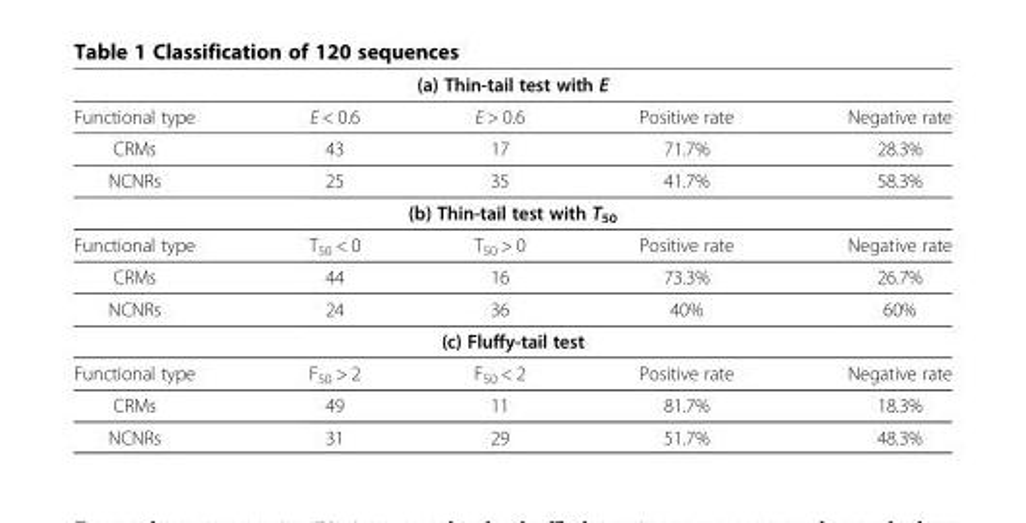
<table><tbody><tr><td colspan="5">(a) Thin-tail test with E</td></tr><tr><td>Functional type</td><td>E &lt; 0.6</td><td>E &gt; 0.6</td><td>Positive rate</td><td>Negative rate</td></tr><tr><td>CRMs</td><td>43</td><td>17</td><td>71.7%</td><td>28.3%</td></tr><tr><td>NCNRs</td><td>25</td><td>35</td><td>41.7%</td><td>58.3%</td></tr><tr><td colspan="5">(b) Thin-tail test with T<sub>50</sub></td></tr><tr><td>Functional type</td><td>T<sub>50</sub> &lt; 0</td><td>T<sub>50</sub> &gt; 0</td><td>Positive rate</td><td>Negative rate</td></tr><tr><td>CRMs</td><td>44</td><td>16</td><td>73.3%</td><td>26.7%</td></tr><tr><td>NCNRs</td><td>24</td><td>36</td><td>40%</td><td>60%</td></tr><tr><td colspan="5">(c) Fluffy-tail test</td></tr><tr><td>Functional type</td><td>F<sub>50</sub> &gt; 2</td><td>F<sub>50</sub> &lt; 2</td><td>Positive rate</td><td>Negative rate</td></tr><tr><td>CRMs</td><td>49</td><td>11</td><td>81.7%</td><td>18.3%</td></tr><tr><td>NCNRs</td><td>31</td><td>29</td><td>51.7%</td><td>48.3%</td></tr></tbody></table>